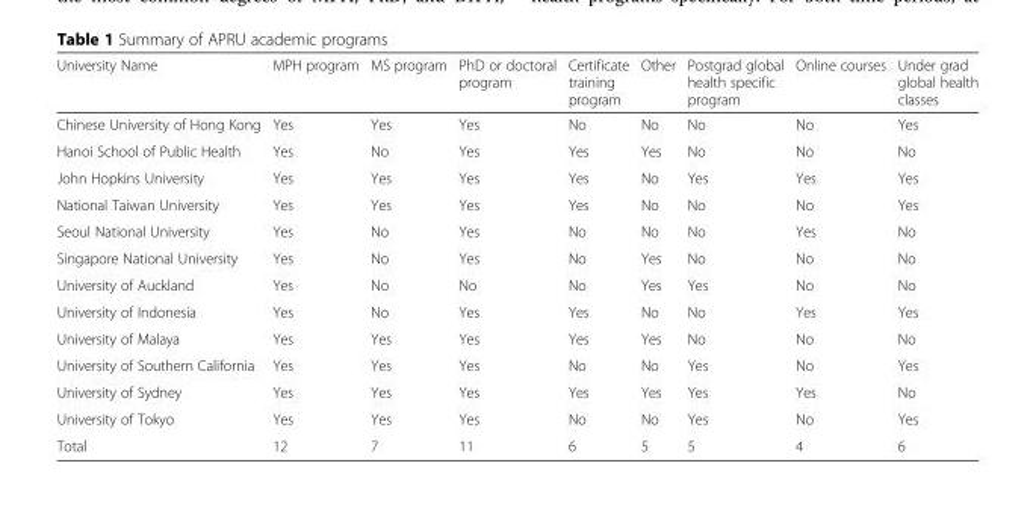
<table><thead><tr><td>University Name</td><td>MPH program</td><td>MS program</td><td>PhD or doctoral program</td><td>Certificate training program</td><td>Other</td><td>Postgrad global health specific program</td><td>Online courses</td><td>Under grad global health classes</td></tr></thead><tbody><tr><td>Chinese University of Hong Kong</td><td>Yes</td><td>Yes</td><td>Yes</td><td>No</td><td>No</td><td>No</td><td>No</td><td>Yes</td></tr><tr><td>Hanoi School of Public Health</td><td>Yes</td><td>No</td><td>Yes</td><td>Yes</td><td>Yes</td><td>No</td><td>No</td><td>No</td></tr><tr><td>John Hopkins University</td><td>Yes</td><td>Yes</td><td>Yes</td><td>Yes</td><td>No</td><td>Yes</td><td>Yes</td><td>Yes</td></tr><tr><td>National Taiwan University</td><td>Yes</td><td>Yes</td><td>Yes</td><td>Yes</td><td>No</td><td>No</td><td>No</td><td>Yes</td></tr><tr><td>Seoul National University</td><td>Yes</td><td>No</td><td>Yes</td><td>No</td><td>No</td><td>No</td><td>Yes</td><td>No</td></tr><tr><td>Singapore National University</td><td>Yes</td><td>No</td><td>Yes</td><td>No</td><td>Yes</td><td>No</td><td>No</td><td>No</td></tr><tr><td>University of Auckland</td><td>Yes</td><td>No</td><td>No</td><td>No</td><td>Yes</td><td>Yes</td><td>No</td><td>No</td></tr><tr><td>University of Indonesia</td><td>Yes</td><td>No</td><td>Yes</td><td>Yes</td><td>No</td><td>No</td><td>Yes</td><td>Yes</td></tr><tr><td>University of Malaya</td><td>Yes</td><td>Yes</td><td>Yes</td><td>Yes</td><td>Yes</td><td>No</td><td>No</td><td>No</td></tr><tr><td>University of Southern California</td><td>Yes</td><td>Yes</td><td>Yes</td><td>No</td><td>No</td><td>Yes</td><td>No</td><td>Yes</td></tr><tr><td>University of Sydney</td><td>Yes</td><td>Yes</td><td>Yes</td><td>Yes</td><td>Yes</td><td>Yes</td><td>Yes</td><td>No</td></tr><tr><td>University of Tokyo</td><td>Yes</td><td>Yes</td><td>Yes</td><td>No</td><td>No</td><td>Yes</td><td>No</td><td>Yes</td></tr><tr><td>Total</td><td>12</td><td>7</td><td>11</td><td>6</td><td>5</td><td>5</td><td>4</td><td>6</td></tr></tbody></table>